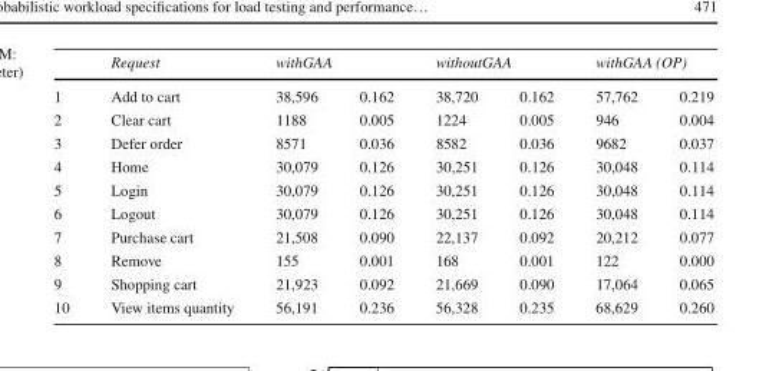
<table><thead><tr><td rowspan="2">1</td><td rowspan="2">Request Add to cart</td><td colspan="2">withGAA</td><td colspan="2">withoutGAA</td><td colspan="2">withGAA (OP)</td></tr><tr><td>38,596</td><td>0.162</td><td>38,720</td><td>0.162</td><td>57,762</td><td>0.219</td></tr></thead><tbody><tr><td>2</td><td>Clear cart</td><td>1188</td><td>0.005</td><td>1224</td><td>0.005</td><td>946</td><td>0.004</td></tr><tr><td>3</td><td>Defer order</td><td>8571</td><td>0.036</td><td>8582</td><td>0.036</td><td>9682</td><td>0.037</td></tr><tr><td>4</td><td>Home</td><td>30,079</td><td>0.126</td><td>30,251</td><td>0.126</td><td>30,048</td><td>0.114</td></tr><tr><td>5</td><td>Login</td><td>30,079</td><td>0.126</td><td>30,251</td><td>0.126</td><td>30,048</td><td>0.114</td></tr><tr><td>6</td><td>Logout</td><td>30,079</td><td>0.126</td><td>30,251</td><td>0.126</td><td>30,048</td><td>0.114</td></tr><tr><td>7</td><td>Purchase cart</td><td>21,508</td><td>0.090</td><td>22,137</td><td>0.092</td><td>20,212</td><td>0.077</td></tr><tr><td>8</td><td>Remove</td><td>155</td><td>0.001</td><td>168</td><td>0.001</td><td>122</td><td>0.000</td></tr><tr><td>9</td><td>Shopping cart</td><td>21,923</td><td>0.092</td><td>21,669</td><td>0.090</td><td>17,064</td><td>0.065</td></tr><tr><td>10</td><td>View items quantity</td><td>56,191</td><td>0.236</td><td>56,328</td><td>0.235</td><td>68,629</td><td>0.260</td></tr></tbody></table>